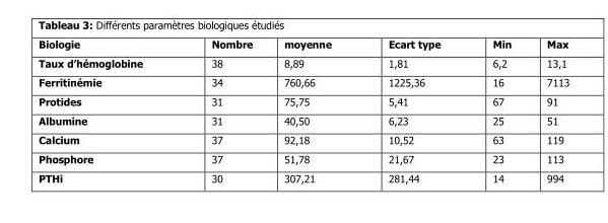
<table><thead><tr><td>Biologie</td><td>Nombre</td><td>moyenne</td><td>Ecart type</td><td>Min</td><td>Max</td></tr></thead><tbody><tr><td>Taux d’hémoglobine</td><td>38</td><td>8,89</td><td>1,81</td><td>6,2</td><td>13,1</td></tr><tr><td>Ferritinémie</td><td>34</td><td>760,66</td><td>1225,36</td><td>16</td><td>7113</td></tr><tr><td>Protides</td><td>31</td><td>75,75</td><td>5,41</td><td>67</td><td>91</td></tr><tr><td>Albumine</td><td>31</td><td>40,50</td><td>6,23</td><td>25</td><td>51</td></tr><tr><td>Calcium</td><td>37</td><td>92,18</td><td>10,52</td><td>63</td><td>119</td></tr><tr><td>Phosphore</td><td>37</td><td>51,78</td><td>21,67</td><td>23</td><td>113</td></tr><tr><td>PTHi</td><td>30</td><td>307,21</td><td>281,44</td><td>14</td><td>994</td></tr></tbody></table>